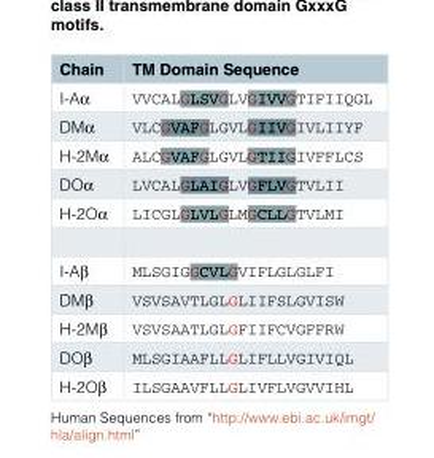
<table><thead><tr><td>Chain</td><td>TM Domain Sequence</td></tr></thead><tbody><tr><td>I-Aα</td><td>VVCALGLSVGLVGIVVGTIFIIQGL</td></tr><tr><td>DMα</td><td>VLCGVAFGLGVLGIIVGIVLIIYF</td></tr><tr><td>H-2Mα</td><td>ALCGVAFGLGVLGTIIGIVFFLCS</td></tr><tr><td>DOα</td><td>LVCALGLAIGLVGFLVGTVLII</td></tr><tr><td>H-2Oα</td><td>LICGLGLVLGLMGCLLGTVLMI</td></tr><tr><td>I-Aβ</td><td>MLSGIGGCVLGVIFLGLGLFI</td></tr><tr><td>DMβ</td><td>VSVSAVTLGLGLIIFSLGVISW</td></tr><tr><td>H-2Mβ</td><td>VSVSAATLGLGFIIFCVGFFRW</td></tr><tr><td>DOβ</td><td>MLSGIAAFLLGLIFLLVGIVIQL</td></tr><tr><td>H-2Oβ</td><td>ILSGAAVFLLGLIVFLVGVVIHL</td></tr></tbody></table>